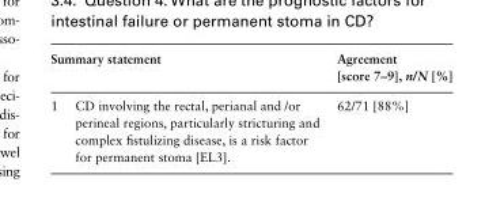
<table><thead><tr><td colspan="2">Summary statement</td><td rowspan="2">Agreement [score 7–9], n/N [%] 62/71 [88%]</td></tr><tr><td>1</td><td>CD involving the rectal, perianal and /or perineal regions, particularly stricturing and complex fistulizing disease, is a risk factor for permanent stoma [EL3].</td></tr></thead><tbody></tbody></table>